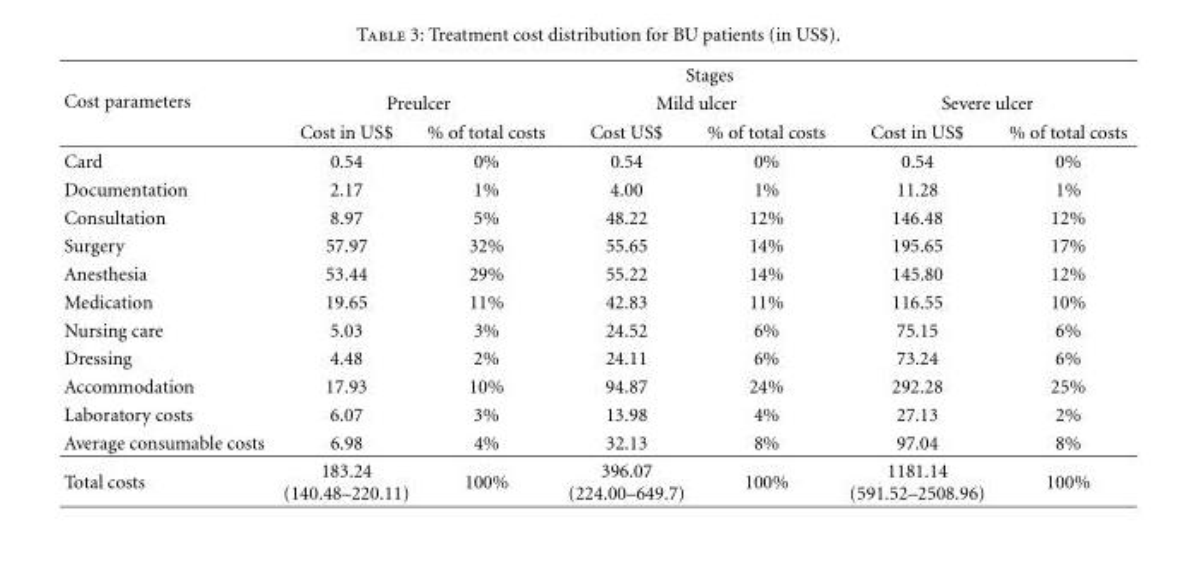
<table><thead><tr><td rowspan="3">Cost parameters</td><td colspan="6">Stages</td></tr><tr><td colspan="2">Preulcer</td><td colspan="2">Mild ulcer</td><td colspan="2">Severe ulcer</td></tr><tr><td>Cost in US$</td><td>% of total costs</td><td>Cost US$</td><td>% of total costs</td><td>Cost in US$</td><td>% of total costs</td></tr></thead><tbody><tr><td>Card</td><td>0.54</td><td>0%</td><td>0.54</td><td>0%</td><td>0.54</td><td>0%</td></tr><tr><td>Documentation</td><td>2.17</td><td>1%</td><td>4.00</td><td>1%</td><td>11.28</td><td>1%</td></tr><tr><td>Consultation</td><td>8.97</td><td>5%</td><td>48.22</td><td>12%</td><td>146.48</td><td>12%</td></tr><tr><td>Surgery</td><td>57.97</td><td>32%</td><td>55.65</td><td>14%</td><td>195.65</td><td>17%</td></tr><tr><td>Anesthesia</td><td>53.44</td><td>29%</td><td>55.22</td><td>14%</td><td>145.80</td><td>12%</td></tr><tr><td>Medication</td><td>19.65</td><td>11%</td><td>42.83</td><td>11%</td><td>116.55</td><td>10%</td></tr><tr><td>Nursing care</td><td>5.03</td><td>3%</td><td>24.52</td><td>6%</td><td>75.15</td><td>6%</td></tr><tr><td>Dressing</td><td>4.48</td><td>2%</td><td>24.11</td><td>6%</td><td>73.24</td><td>6%</td></tr><tr><td>Accommodation</td><td>17.93</td><td>10%</td><td>94.87</td><td>24%</td><td>292.28</td><td>25%</td></tr><tr><td>Laboratory costs</td><td>6.07</td><td>3%</td><td>13.98</td><td>4%</td><td>27.13</td><td>2%</td></tr><tr><td>Average consumable costs</td><td>6.98</td><td>4%</td><td>32.13</td><td>8%</td><td>97.04</td><td>8%</td></tr><tr><td>Total costs</td><td>183.24 (140.48–220.11)</td><td>100%</td><td>396.07 (224.00–649.7)</td><td>100%</td><td>1181.14 (591.52–2508.96)</td><td>100%</td></tr></tbody></table>